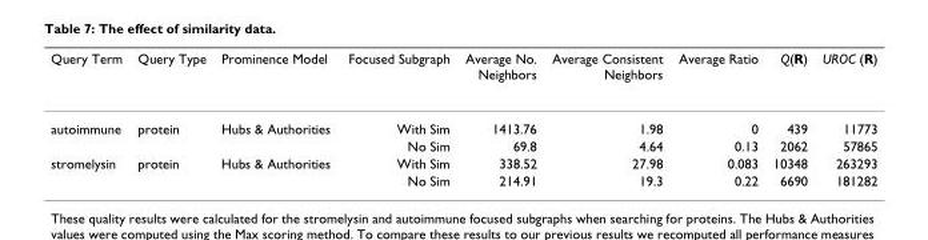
<table><thead><tr><td>Query Term</td><td>Query Type</td><td>Prominence Model</td><td>Focused Subgraph</td><td>Average No. Neighbors</td><td>Average Consistent Neighbors</td><td>Average Ratio</td><td>Q(R)</td><td>UROC (R)</td></tr></thead><tbody><tr><td rowspan="2">autoimmune</td><td>protein</td><td>Hubs &amp; Authorities</td><td>With Sim</td><td>1413.76</td><td>1.98</td><td>0</td><td>439</td><td>11773</td></tr><tr><td></td><td></td><td>No Sim</td><td>69.8</td><td>4.64</td><td>0.13</td><td>2062</td><td>57865</td></tr><tr><td rowspan="2">stromelysin</td><td>protein</td><td>Hubs &amp; Authorities</td><td>With Sim</td><td>338.52</td><td>27.98</td><td>0.083</td><td>10348</td><td>263293</td></tr><tr><td></td><td></td><td>No Sim</td><td>214.91</td><td>19.3</td><td>0.22</td><td>6690</td><td>181282</td></tr></tbody></table>